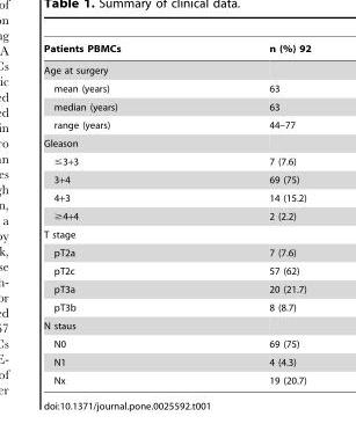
<table><thead><tr><td>Patients PBMCs</td><td>n (%) 92</td></tr></thead><tbody><tr><td colspan="2">Age at surgery</td></tr><tr><td>mean (years)</td><td>63</td></tr><tr><td>median (years)</td><td>63</td></tr><tr><td>range (years)</td><td>44–77</td></tr><tr><td colspan="2">Gleason</td></tr><tr><td>≤3+3</td><td>7 (7.6)</td></tr><tr><td>3+4</td><td>69 (75)</td></tr><tr><td>4+3</td><td>14 (15.2)</td></tr><tr><td>≥4+4</td><td>2 (2.2)</td></tr><tr><td colspan="2">T stage</td></tr><tr><td>pT2a</td><td>7 (7.6)</td></tr><tr><td>pT2c</td><td>57 (62)</td></tr><tr><td>pT3a</td><td>20 (21.7)</td></tr><tr><td>pT3b</td><td>8 (8.7)</td></tr><tr><td colspan="2">N staus</td></tr><tr><td>N0</td><td>69 (75)</td></tr><tr><td>N1</td><td>4 (4.3)</td></tr><tr><td>Nx</td><td>19 (20.7)</td></tr></tbody></table>